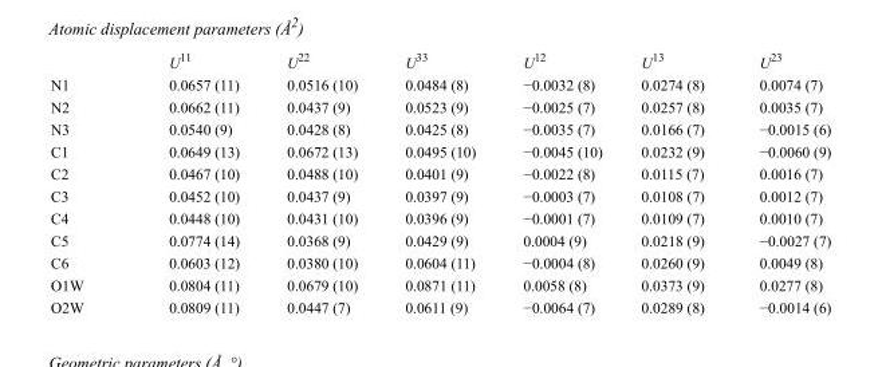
<table><thead><tr><td></td><td>U<sup>11</sup></td><td>U<sup>22</sup></td><td>U<sup>33</sup></td><td>U<sup>12</sup></td><td>U<sup>13</sup></td><td>U<sup>23</sup></td></tr></thead><tbody><tr><td>N1</td><td>0.0657 (11)</td><td>0.0516 (10)</td><td>0.0484 (8)</td><td>−0.0032 (8)</td><td>0.0274 (8)</td><td>0.0074 (7)</td></tr><tr><td>N2</td><td>0.0662 (11)</td><td>0.0437 (9)</td><td>0.0523 (9)</td><td>−0.0025 (7)</td><td>0.0257 (8)</td><td>0.0035 (7)</td></tr><tr><td>N3</td><td>0.0540 (9)</td><td>0.0428 (8)</td><td>0.0425 (8)</td><td>−0.0035 (7)</td><td>0.0166 (7)</td><td>−0.0015 (6)</td></tr><tr><td>C1</td><td>0.0649 (13)</td><td>0.0672 (13)</td><td>0.0495 (10)</td><td>−0.0045 (10)</td><td>0.0232 (9)</td><td>−0.0060 (9)</td></tr><tr><td>C2</td><td>0.0467 (10)</td><td>0.0488 (10)</td><td>0.0401 (9)</td><td>−0.0022 (8)</td><td>0.0115 (7)</td><td>0.0016 (7)</td></tr><tr><td>C3</td><td>0.0452 (10)</td><td>0.0437 (9)</td><td>0.0397 (9)</td><td>−0.0003 (7)</td><td>0.0108 (7)</td><td>0.0012 (7)</td></tr><tr><td>C4</td><td>0.0448 (10)</td><td>0.0431 (10)</td><td>0.0396 (9)</td><td>−0.0001 (7)</td><td>0.0109 (7)</td><td>0.0010 (7)</td></tr><tr><td>C5</td><td>0.0774 (14)</td><td>0.0368 (9)</td><td>0.0429 (9)</td><td>0.0004 (9)</td><td>0.0218 (9)</td><td>−0.0027 (7)</td></tr><tr><td>C6</td><td>0.0603 (12)</td><td>0.0380 (10)</td><td>0.0604 (11)</td><td>−0.0004 (8)</td><td>0.0260 (9)</td><td>0.0049 (8)</td></tr><tr><td>O1W</td><td>0.0804 (11)</td><td>0.0679 (10)</td><td>0.0871 (11)</td><td>0.0058 (8)</td><td>0.0373 (9)</td><td>0.0277 (8)</td></tr><tr><td>O2W</td><td>0.0809 (11)</td><td>0.0447 (7)</td><td>0.0611 (9)</td><td>−0.0064 (7)</td><td>0.0289 (8)</td><td>−0.0014 (6)</td></tr></tbody></table>